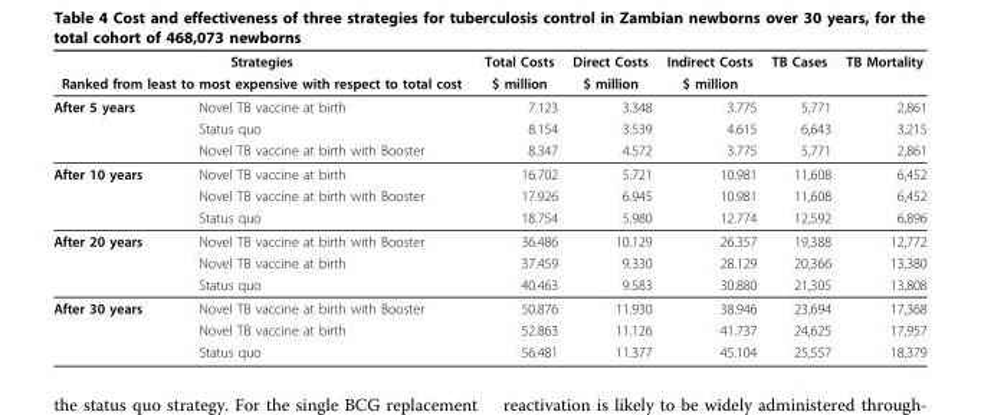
<table><thead><tr><td rowspan="2" colspan="2">Strategies Ranked from least to most expensive with respect to total cost</td><td rowspan="3">Total Costs $ million 7.123</td><td rowspan="3">Direct Costs $ million 3.348</td><td rowspan="3">Indirect Costs $ million 3.775</td><td rowspan="3">TB Cases 5,771</td><td rowspan="3">TB Mortality 2,861</td></tr><tr></tr><tr><td>After 5 years</td><td>Novel TB vaccine at birth</td></tr></thead><tbody><tr><td></td><td>Status quo</td><td>8.154</td><td>3.539</td><td>4.615</td><td>6,643</td><td>3,215</td></tr><tr><td></td><td>Novel TB vaccine at birth with Booster</td><td>8.347</td><td>4.572</td><td>3.775</td><td>5,771</td><td>2,861</td></tr><tr><td rowspan="3">After 10 years</td><td>Novel TB vaccine at birth</td><td>16.702</td><td>5.721</td><td>10.981</td><td>11,608</td><td>6,452</td></tr><tr><td>Novel TB vaccine at birth with Booster</td><td>17.926</td><td>6.945</td><td>10.981</td><td>11,608</td><td>6,452</td></tr><tr><td>Status quo</td><td>18.754</td><td>5.980</td><td>12.774</td><td>12,592</td><td>6,896</td></tr><tr><td rowspan="3">After 20 years</td><td>Novel TB vaccine at birth with Booster</td><td>36.486</td><td>10.129</td><td>26.357</td><td>19,388</td><td>12,772</td></tr><tr><td>Novel TB vaccine at birth</td><td>37.459</td><td>9.330</td><td>28.129</td><td>20,366</td><td>13,380</td></tr><tr><td>Status quo</td><td>40.463</td><td>9.583</td><td>30.880</td><td>21,305</td><td>13,808</td></tr><tr><td rowspan="3">After 30 years</td><td>Novel TB vaccine at birth with Booster</td><td>50.876</td><td>11.930</td><td>38.946</td><td>23,694</td><td>17,368</td></tr><tr><td>Novel TB vaccine at birth</td><td>52.863</td><td>11.126</td><td>41.737</td><td>24,625</td><td>17,957</td></tr><tr><td>Status quo</td><td>56.481</td><td>11.377</td><td>45.104</td><td>25,557</td><td>18,379</td></tr></tbody></table>